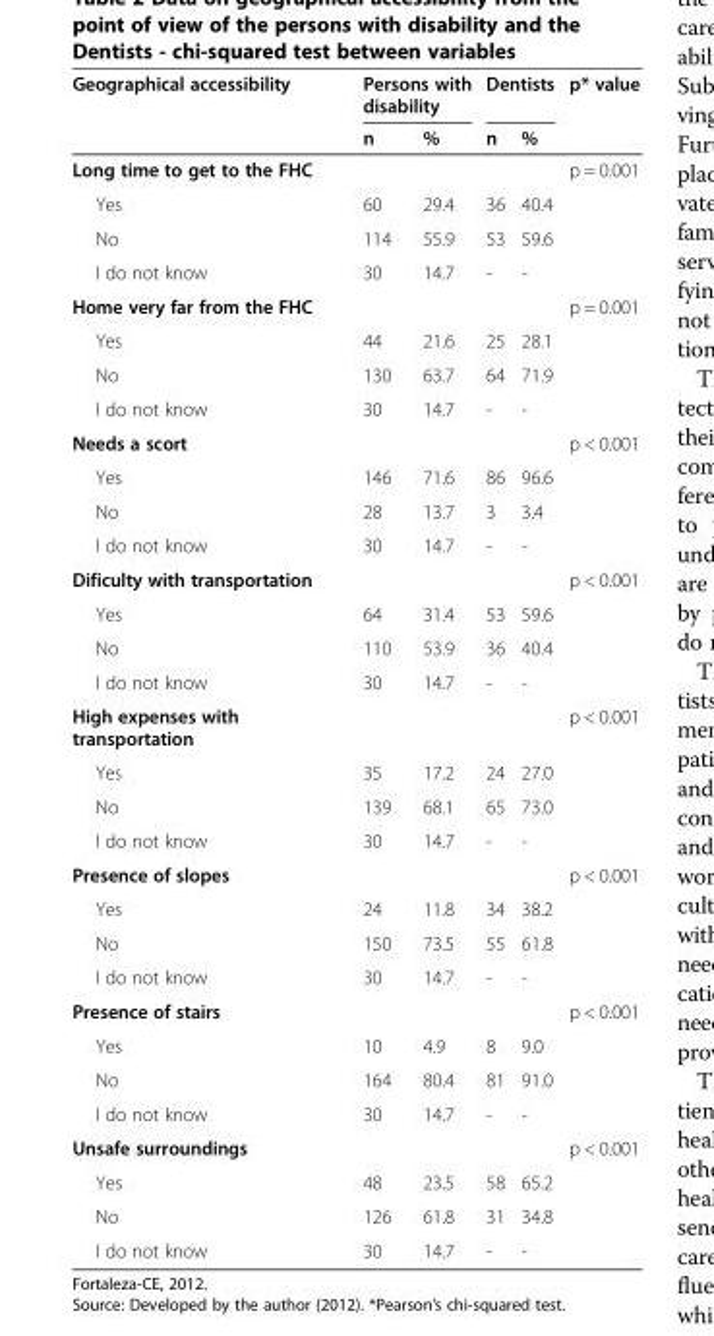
<table><thead><tr><td rowspan="2">Geographical accessibility</td><td colspan="2">Persons with disability</td><td colspan="2">Dentists</td><td rowspan="2">p* value</td></tr><tr><td>n</td><td>%</td><td>n</td><td>%</td></tr></thead><tbody><tr><td>Long time to get to the FHC</td><td></td><td></td><td></td><td></td><td>p = 0.001</td></tr><tr><td>Yes</td><td>60</td><td>29.4</td><td>36</td><td>40.4</td><td></td></tr><tr><td>No</td><td>114</td><td>55.9</td><td>53</td><td>59.6</td><td></td></tr><tr><td>I do not know</td><td>30</td><td>14.7</td><td>-</td><td>-</td><td></td></tr><tr><td>Home very far from the FHC</td><td></td><td></td><td></td><td></td><td>p = 0.001</td></tr><tr><td>Yes</td><td>44</td><td>21.6</td><td>25</td><td>28.1</td><td></td></tr><tr><td>No</td><td>130</td><td>63.7</td><td>64</td><td>71.9</td><td></td></tr><tr><td>I do not know</td><td>30</td><td>14.7</td><td>-</td><td>-</td><td></td></tr><tr><td>Needs a scort</td><td></td><td></td><td></td><td></td><td>p &lt; 0.001</td></tr><tr><td>Yes</td><td>146</td><td>71.6</td><td>86</td><td>96.6</td><td></td></tr><tr><td>No</td><td>28</td><td>13.7</td><td>3</td><td>3.4</td><td></td></tr><tr><td>I do not know</td><td>30</td><td>14.7</td><td>-</td><td>-</td><td></td></tr><tr><td>Dificulty with transportation</td><td></td><td></td><td></td><td></td><td>p &lt; 0.001</td></tr><tr><td>Yes</td><td>64</td><td>31.4</td><td>53</td><td>59.6</td><td></td></tr><tr><td>No</td><td>110</td><td>53.9</td><td>36</td><td>40.4</td><td></td></tr><tr><td>I do not know</td><td>30</td><td>14.7</td><td>-</td><td>-</td><td></td></tr><tr><td>High expenses with transportation</td><td></td><td></td><td></td><td></td><td>p &lt; 0.001</td></tr><tr><td>Yes</td><td>35</td><td>17.2</td><td>24</td><td>27.0</td><td></td></tr><tr><td>No</td><td>139</td><td>68.1</td><td>65</td><td>73.0</td><td></td></tr><tr><td>I do not know</td><td>30</td><td>14.7</td><td>-</td><td>-</td><td></td></tr><tr><td>Presence of slopes</td><td></td><td></td><td></td><td></td><td>p &lt; 0.001</td></tr><tr><td>Yes</td><td>24</td><td>11.8</td><td>34</td><td>38.2</td><td></td></tr><tr><td>No</td><td>150</td><td>73.5</td><td>55</td><td>61.8</td><td></td></tr><tr><td>I do not know</td><td>30</td><td>14.7</td><td>-</td><td>-</td><td></td></tr><tr><td>Presence of stairs</td><td></td><td></td><td></td><td></td><td>p &lt; 0.001</td></tr><tr><td>Yes</td><td>10</td><td>4.9</td><td>8</td><td>9.0</td><td></td></tr><tr><td>No</td><td>164</td><td>80.4</td><td>81</td><td>91.0</td><td></td></tr><tr><td>I do not know</td><td>30</td><td>14.7</td><td>-</td><td>-</td><td></td></tr><tr><td>Unsafe surroundings</td><td></td><td></td><td></td><td></td><td>p &lt; 0.001</td></tr><tr><td>Yes</td><td>48</td><td>23.5</td><td>58</td><td>65.2</td><td></td></tr><tr><td>No</td><td>126</td><td>61.8</td><td>31</td><td>34.8</td><td></td></tr><tr><td>I do not know</td><td>30</td><td>14.7</td><td>-</td><td>-</td><td></td></tr></tbody></table>